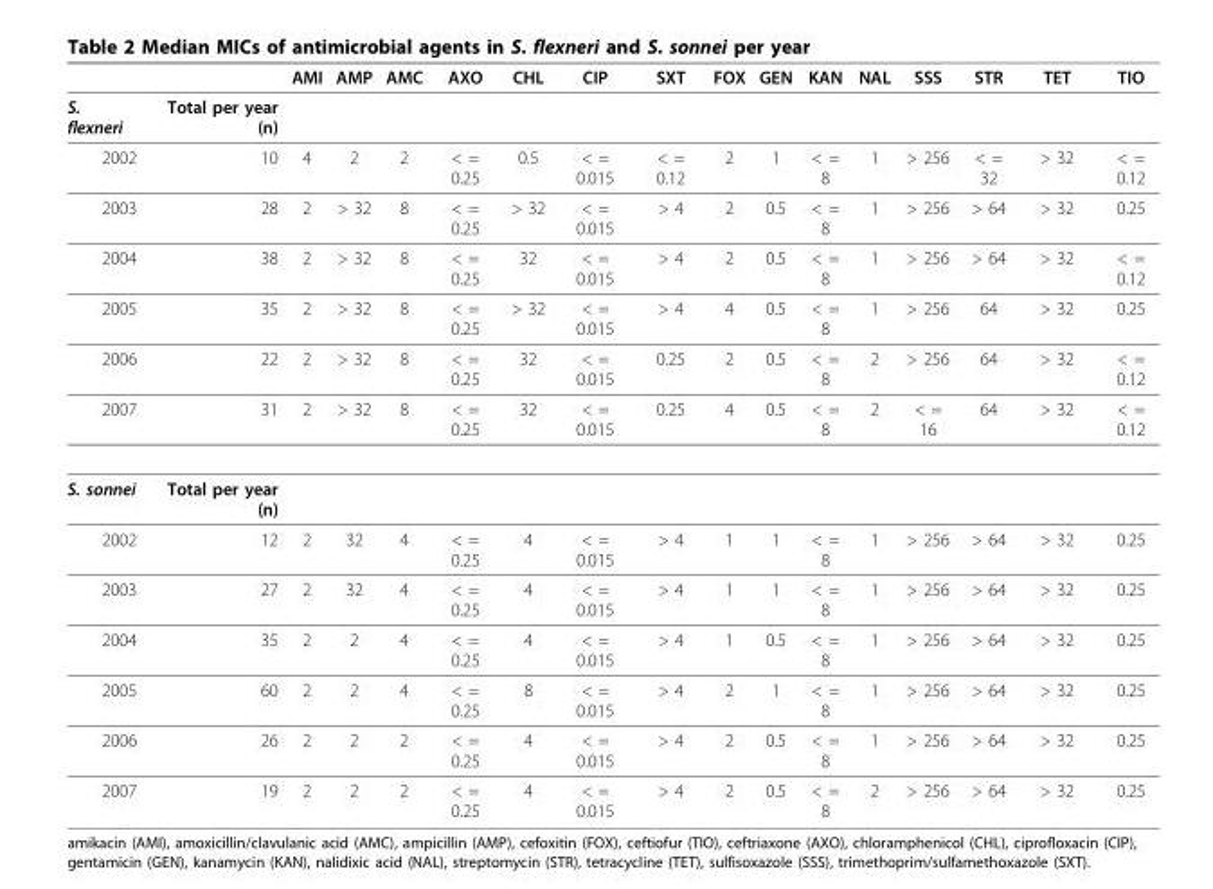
<table><thead><tr><td></td><td></td><td>AMI</td><td>AMP</td><td>AMC</td><td>AXO</td><td>CHL</td><td>CIP</td><td>SXT</td><td>FOX</td><td>GEN</td><td>KAN</td><td>NAL</td><td>SSS</td><td>STR</td><td>TET</td><td>TIO</td></tr></thead><tbody><tr><td>S. flexneri</td><td>Total per year (n)</td><td></td><td></td><td></td><td></td><td></td><td></td><td></td><td></td><td></td><td></td><td></td><td></td><td></td><td></td><td></td></tr><tr><td>2002</td><td>10</td><td>4</td><td>2</td><td>2</td><td>&lt; = 0.25</td><td>0.5</td><td>&lt; = 0.015</td><td>&lt; = 0.12</td><td>2</td><td>1</td><td>&lt; = 8</td><td>1</td><td>&gt; 256</td><td>&lt; = 32</td><td>&gt; 32</td><td>&lt; = 0.12</td></tr><tr><td>2003</td><td>28</td><td>2</td><td>&gt; 32</td><td>8</td><td>&lt; = 0.25</td><td>&gt; 32</td><td>&lt; = 0.015</td><td>&gt; 4</td><td>2</td><td>0.5</td><td>&lt; = 8</td><td>1</td><td>&gt; 256</td><td>&gt; 64</td><td>&gt; 32</td><td>0.25</td></tr><tr><td>2004</td><td>38</td><td>2</td><td>&gt; 32</td><td>8</td><td>&lt; = 0.25</td><td>32</td><td>&lt; = 0.015</td><td>&gt; 4</td><td>2</td><td>0.5</td><td>&lt; = 8</td><td>1</td><td>&gt; 256</td><td>&gt; 64</td><td>&gt; 32</td><td>&lt; = 0.12</td></tr><tr><td>2005</td><td>35</td><td>2</td><td>&gt; 32</td><td>8</td><td>&lt; = 0.25</td><td>&gt; 32</td><td>&lt; = 0.015</td><td>&gt; 4</td><td>4</td><td>0.5</td><td>&lt; = 8</td><td>1</td><td>&gt; 256</td><td>64</td><td>&gt; 32</td><td>0.25</td></tr><tr><td>2006</td><td>22</td><td>2</td><td>&gt; 32</td><td>8</td><td>&lt; = 0.25</td><td>32</td><td>&lt; = 0.015</td><td>0.25</td><td>2</td><td>0.5</td><td>&lt; = 8</td><td>2</td><td>&gt; 256</td><td>64</td><td>&gt; 32</td><td>&lt; = 0.12</td></tr><tr><td>2007</td><td>31</td><td>2</td><td>&gt; 32</td><td>8</td><td>&lt; = 0.25</td><td>32</td><td>&lt; = 0.015</td><td>0.25</td><td>4</td><td>0.5</td><td>&lt; = 8</td><td>2</td><td>&lt; = 16</td><td>64</td><td>&gt; 32</td><td>&lt; = 0.12</td></tr><tr><td>S. sonnei</td><td>Total per year (n)</td><td></td><td></td><td></td><td></td><td></td><td></td><td></td><td></td><td></td><td></td><td></td><td></td><td></td><td></td><td></td></tr><tr><td>2002</td><td>12</td><td>2</td><td>32</td><td>4</td><td>&lt; = 0.25</td><td>4</td><td>&lt; = 0.015</td><td>&gt; 4</td><td>1</td><td>1</td><td>&lt; = 8</td><td>1</td><td>&gt; 256</td><td>&gt; 64</td><td>&gt; 32</td><td>0.25</td></tr><tr><td>2003</td><td>27</td><td>2</td><td>32</td><td>4</td><td>&lt; = 0.25</td><td>4</td><td>&lt; = 0.015</td><td>&gt; 4</td><td>1</td><td>1</td><td>&lt; = 8</td><td>1</td><td>&gt; 256</td><td>&gt; 64</td><td>&gt; 32</td><td>0.25</td></tr><tr><td>2004</td><td>35</td><td>2</td><td>2</td><td>4</td><td>&lt; = 0.25</td><td>4</td><td>&lt; = 0.015</td><td>&gt; 4</td><td>1</td><td>0.5</td><td>&lt; = 8</td><td>1</td><td>&gt; 256</td><td>&gt; 64</td><td>&gt; 32</td><td>0.25</td></tr><tr><td>2005</td><td>60</td><td>2</td><td>2</td><td>4</td><td>&lt; = 0.25</td><td>8</td><td>&lt; = 0.015</td><td>&gt; 4</td><td>2</td><td>1</td><td>&lt; = 8</td><td>1</td><td>&gt; 256</td><td>&gt; 64</td><td>&gt; 32</td><td>0.25</td></tr><tr><td>2006</td><td>26</td><td>2</td><td>2</td><td>2</td><td>&lt; = 0.25</td><td>4</td><td>&lt; = 0.015</td><td>&gt; 4</td><td>2</td><td>0.5</td><td>&lt; = 8</td><td>1</td><td>&gt; 256</td><td>&gt; 64</td><td>&gt; 32</td><td>0.25</td></tr><tr><td>2007</td><td>19</td><td>2</td><td>2</td><td>2</td><td>&lt; = 0.25</td><td>4</td><td>&lt; = 0.015</td><td>&gt; 4</td><td>2</td><td>0.5</td><td>&lt; = 8</td><td>2</td><td>&gt; 256</td><td>&gt; 64</td><td>&gt; 32</td><td>0.25</td></tr></tbody></table>